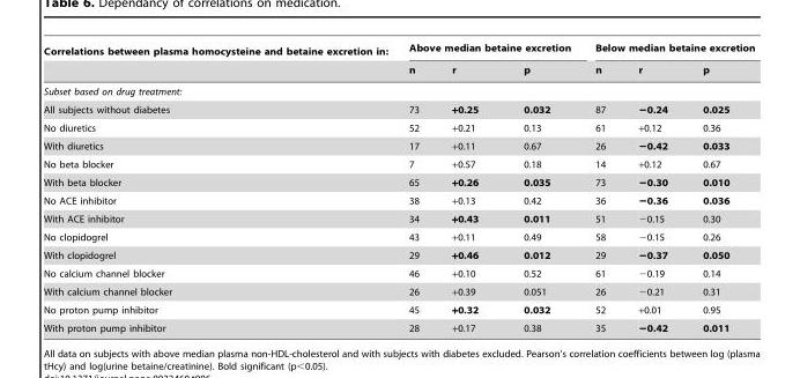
<table><thead><tr><td rowspan="2">Correlations between plasma homocysteine and betaine excretion in:</td><td colspan="3">Above median betaine excretion</td><td colspan="3">Below median betaine excretion</td></tr><tr><td>n</td><td>r</td><td>p</td><td>n</td><td>r</td><td>p</td></tr></thead><tbody><tr><td colspan="7">Subset based on drug treatment:</td></tr><tr><td>All subjects without diabetes</td><td>73</td><td>+0.25</td><td>0.032</td><td>87</td><td>−0.24</td><td>0.025</td></tr><tr><td>No diuretics</td><td>52</td><td>+0.21</td><td>0.13</td><td>61</td><td>+0.12</td><td>0.36</td></tr><tr><td>With diuretics</td><td>17</td><td>+0.11</td><td>0.67</td><td>26</td><td>−0.42</td><td>0.033</td></tr><tr><td>No beta blocker</td><td>7</td><td>+0.57</td><td>0.18</td><td>14</td><td>+0.12</td><td>0.67</td></tr><tr><td>With beta blocker</td><td>65</td><td>+0.26</td><td>0.035</td><td>73</td><td>−0.30</td><td>0.010</td></tr><tr><td>No ACE inhibitor</td><td>38</td><td>+0.13</td><td>0.42</td><td>36</td><td>−0.36</td><td>0.036</td></tr><tr><td>With ACE inhibitor</td><td>34</td><td>+0.43</td><td>0.011</td><td>51</td><td>−0.15</td><td>0.30</td></tr><tr><td>No clopidogrel</td><td>43</td><td>+0.11</td><td>0.49</td><td>58</td><td>−0.15</td><td>0.26</td></tr><tr><td>With clopidogrel</td><td>29</td><td>+0.46</td><td>0.012</td><td>29</td><td>−0.37</td><td>0.050</td></tr><tr><td>No calcium channel blocker</td><td>46</td><td>+0.10</td><td>0.52</td><td>61</td><td>−0.19</td><td>0.14</td></tr><tr><td>With calcium channel blocker</td><td>26</td><td>+0.39</td><td>0.051</td><td>26</td><td>−0.21</td><td>0.31</td></tr><tr><td>No proton pump inhibitor</td><td>45</td><td>+0.32</td><td>0.032</td><td>52</td><td>+0.01</td><td>0.95</td></tr><tr><td>With proton pump inhibitor</td><td>28</td><td>+0.17</td><td>0.38</td><td>35</td><td>−0.42</td><td>0.011</td></tr></tbody></table>